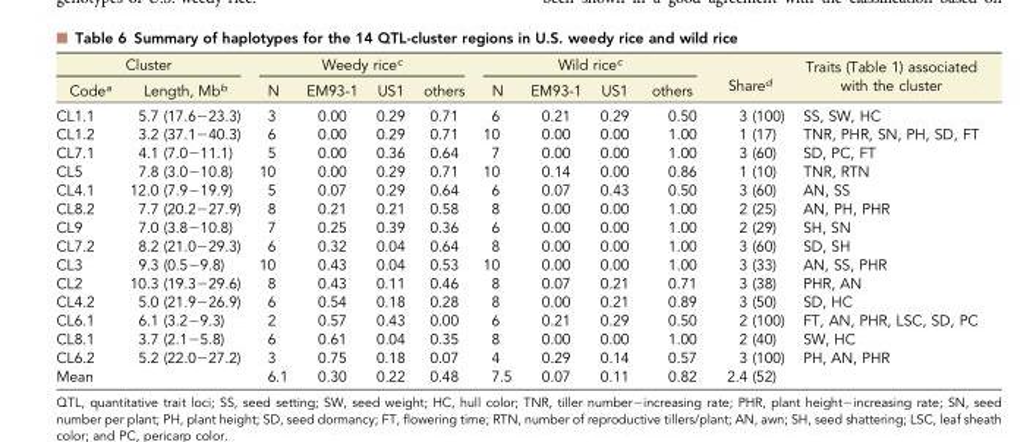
<table><thead><tr><td colspan="2">Cluster</td><td colspan="4">Weedy rice<sup>c</sup></td><td colspan="4">Wild rice<sup>c</sup></td><td rowspan="2">Share<sup>d</sup></td><td rowspan="2">Traits (Table 1) associated with the cluster</td></tr><tr><td>Code<sup>a</sup></td><td>Length, Mb<sup>b</sup></td><td>N</td><td>EM93-1</td><td>US1</td><td>others</td><td>N</td><td>EM93-1</td><td>US1</td><td>others</td></tr></thead><tbody><tr><td>CL1.1</td><td>5.7 (17.6−23.3)</td><td>3</td><td>0.00</td><td>0.29</td><td>0.71</td><td>6</td><td>0.21</td><td>0.29</td><td>0.50</td><td>3 (100)</td><td>SS, SW, HC</td></tr><tr><td>CL1.2</td><td>3.2 (37.1−40.3)</td><td>6</td><td>0.00</td><td>0.29</td><td>0.71</td><td>10</td><td>0.00</td><td>0.00</td><td>1.00</td><td>1 (17)</td><td>TNR, PHR, SN, PH, SD, FT</td></tr><tr><td>CL7.1</td><td>4.1 (7.0−11.1)</td><td>5</td><td>0.00</td><td>0.36</td><td>0.64</td><td>7</td><td>0.00</td><td>0.00</td><td>1.00</td><td>3 (60)</td><td>SD, PC, FT</td></tr><tr><td>CL5</td><td>7.8 (3.0−10.8)</td><td>10</td><td>0.00</td><td>0.29</td><td>0.71</td><td>10</td><td>0.14</td><td>0.00</td><td>0.86</td><td>1 (10)</td><td>TNR, RTN</td></tr><tr><td>CL4.1</td><td>12.0 (7.9−19.9)</td><td>5</td><td>0.07</td><td>0.29</td><td>0.64</td><td>6</td><td>0.07</td><td>0.43</td><td>0.50</td><td>3 (60)</td><td>AN, SS</td></tr><tr><td>CL8.2</td><td>7.7 (20.2−27.9)</td><td>8</td><td>0.21</td><td>0.21</td><td>0.58</td><td>8</td><td>0.00</td><td>0.00</td><td>1.00</td><td>2 (25)</td><td>AN, PH, PHR</td></tr><tr><td>CL9</td><td>7.0 (3.8−10.8)</td><td>7</td><td>0.25</td><td>0.39</td><td>0.36</td><td>6</td><td>0.00</td><td>0.00</td><td>1.00</td><td>2 (29)</td><td>SH, SN</td></tr><tr><td>CL7.2</td><td>8.2 (21.0−29.3)</td><td>6</td><td>0.32</td><td>0.04</td><td>0.64</td><td>8</td><td>0.00</td><td>0.00</td><td>1.00</td><td>3 (60)</td><td>SD, SH</td></tr><tr><td>CL3</td><td>9.3 (0.5−9.8)</td><td>10</td><td>0.43</td><td>0.04</td><td>0.53</td><td>10</td><td>0.00</td><td>0.00</td><td>1.00</td><td>3 (33)</td><td>AN, SS, PHR</td></tr><tr><td>CL2</td><td>10.3 (19.3−29.6)</td><td>8</td><td>0.43</td><td>0.11</td><td>0.46</td><td>8</td><td>0.07</td><td>0.21</td><td>0.71</td><td>3 (38)</td><td>PHR, AN</td></tr><tr><td>CL4.2</td><td>5.0 (21.9−26.9)</td><td>6</td><td>0.54</td><td>0.18</td><td>0.28</td><td>8</td><td>0.00</td><td>0.21</td><td>0.89</td><td>3 (50)</td><td>SD, HC</td></tr><tr><td>CL6.1</td><td>6.1 (3.2−9.3)</td><td>2</td><td>0.57</td><td>0.43</td><td>0.00</td><td>6</td><td>0.21</td><td>0.29</td><td>0.50</td><td>2 (100)</td><td>FT, AN, PHR, LSC, SD, PC</td></tr><tr><td>CL8.1</td><td>3.7 (2.1−5.8)</td><td>6</td><td>0.61</td><td>0.04</td><td>0.35</td><td>8</td><td>0.00</td><td>0.00</td><td>1.00</td><td>2 (40)</td><td>SW, HC</td></tr><tr><td>CL6.2</td><td>5.2 (22.0−27.2)</td><td>3</td><td>0.75</td><td>0.18</td><td>0.07</td><td>4</td><td>0.29</td><td>0.14</td><td>0.57</td><td>3 (100)</td><td>PH, AN, PHR</td></tr><tr><td colspan="2">Mean</td><td>6.1</td><td>0.30</td><td>0.22</td><td>0.48</td><td>7.5</td><td>0.07</td><td>0.11</td><td>0.82</td><td>2.4 (52)</td><td></td></tr></tbody></table>